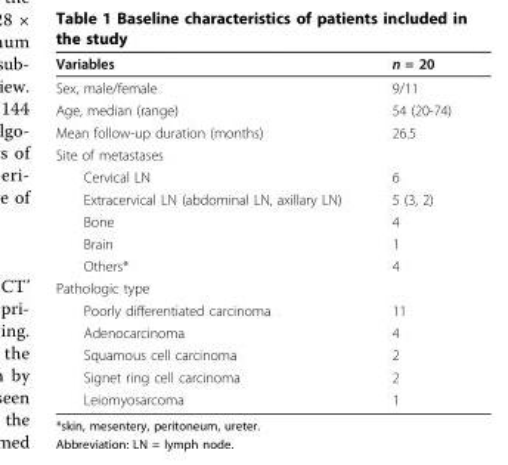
<table><thead><tr><td>Variables</td><td>n = 20</td></tr></thead><tbody><tr><td>Sex, male/female</td><td>9/11</td></tr><tr><td>Age, median (range)</td><td>54 (20-74)</td></tr><tr><td>Mean follow-up duration (months)</td><td>26.5</td></tr><tr><td colspan="2">Site of metastases</td></tr><tr><td>Cervical LN</td><td>6</td></tr><tr><td>Extracervical LN (abdominal LN, axillary LN)</td><td>5 (3, 2)</td></tr><tr><td>Bone</td><td>4</td></tr><tr><td>Brain</td><td>1</td></tr><tr><td>Others*</td><td>4</td></tr><tr><td colspan="2">Pathologic type</td></tr><tr><td>Poorly differentiated carcinoma</td><td>11</td></tr><tr><td>Adenocarcinoma</td><td>4</td></tr><tr><td>Squamous cell carcinoma</td><td>2</td></tr><tr><td>Signet ring cell carcinoma</td><td>2</td></tr><tr><td>Leiomyosarcoma</td><td>1</td></tr></tbody></table>